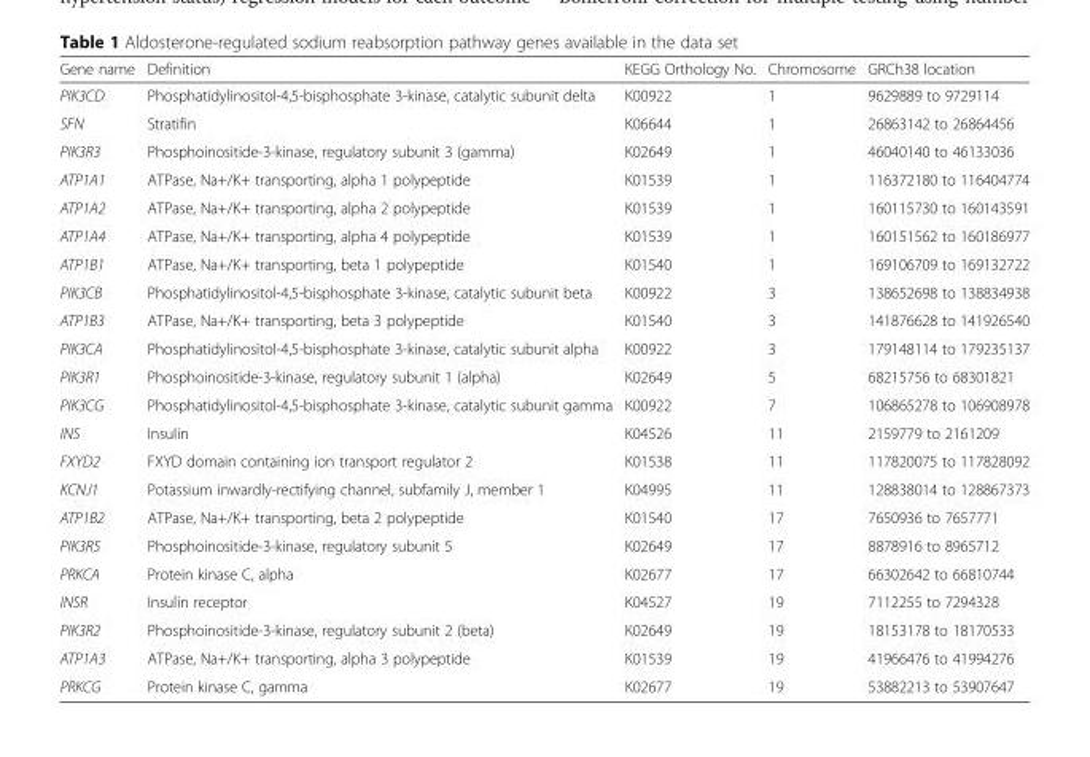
<table><thead><tr><td>Gene name</td><td>Definition</td><td>KEGG Orthology No.</td><td>Chromosome</td><td>GRCh38 location</td></tr></thead><tbody><tr><td>PIK3CD</td><td>Phosphatidylinositol-4,5-bisphosphate 3-kinase, catalytic subunit delta</td><td>K00922</td><td>1</td><td>9629889 to 9729114</td></tr><tr><td>SFN</td><td>Stratifin</td><td>K06644</td><td>1</td><td>26863142 to 26864456</td></tr><tr><td>PIK3R3</td><td>Phosphoinositide-3-kinase, regulatory subunit 3 (gamma)</td><td>K02649</td><td>1</td><td>46040140 to 46133036</td></tr><tr><td>ATP1A1</td><td>ATPase, Na+/K+ transporting, alpha 1 polypeptide</td><td>K01539</td><td>1</td><td>116372180 to 116404774</td></tr><tr><td>ATP1A2</td><td>ATPase, Na+/K+ transporting, alpha 2 polypeptide</td><td>K01539</td><td>1</td><td>160115730 to 160143591</td></tr><tr><td>ATP1A4</td><td>ATPase, Na+/K+ transporting, alpha 4 polypeptide</td><td>K01539</td><td>1</td><td>160151562 to 160186977</td></tr><tr><td>ATP1B1</td><td>ATPase, Na+/K+ transporting, beta 1 polypeptide</td><td>K01540</td><td>1</td><td>169106709 to 169132722</td></tr><tr><td>PIK3CB</td><td>Phosphatidylinositol-4,5-bisphosphate 3-kinase, catalytic subunit beta</td><td>K00922</td><td>3</td><td>138652698 to 138834938</td></tr><tr><td>ATP1B3</td><td>ATPase, Na+/K+ transporting, beta 3 polypeptide</td><td>K01540</td><td>3</td><td>141876628 to 141926540</td></tr><tr><td>PIK3CA</td><td>Phosphatidylinositol-4,5-bisphosphate 3-kinase, catalytic subunit alpha</td><td>K00922</td><td>3</td><td>179148114 to 179235137</td></tr><tr><td>PIK3R1</td><td>Phosphoinositide-3-kinase, regulatory subunit 1 (alpha)</td><td>K02649</td><td>5</td><td>68215756 to 68301821</td></tr><tr><td>PIK3CG</td><td>Phosphatidylinositol-4,5-bisphosphate 3-kinase, catalytic subunit gamma</td><td>K00922</td><td>7</td><td>106865278 to 106908978</td></tr><tr><td>INS</td><td>Insulin</td><td>K04526</td><td>11</td><td>2159779 to 2161209</td></tr><tr><td>FXYD2</td><td>FXYD domain containing ion transport regulator 2</td><td>K01538</td><td>11</td><td>117820075 to 117828092</td></tr><tr><td>KCNJ1</td><td>Potassium inwardly-rectifying channel, subfamily J, member 1</td><td>K04995</td><td>11</td><td>128838014 to 128867373</td></tr><tr><td>ATP1B2</td><td>ATPase, Na+/K+ transporting, beta 2 polypeptide</td><td>K01540</td><td>17</td><td>7650936 to 7657771</td></tr><tr><td>PIK3R5</td><td>Phosphoinositide-3-kinase, regulatory subunit 5</td><td>K02649</td><td>17</td><td>8878916 to 8965712</td></tr><tr><td>PRKCA</td><td>Protein kinase C, alpha</td><td>K02677</td><td>17</td><td>66302642 to 66810744</td></tr><tr><td>INSR</td><td>Insulin receptor</td><td>K04527</td><td>19</td><td>7112255 to 7294328</td></tr><tr><td>PIK3R2</td><td>Phosphoinositide-3-kinase, regulatory subunit 2 (beta)</td><td>K02649</td><td>19</td><td>18153178 to 18170533</td></tr><tr><td>ATP1A3</td><td>ATPase, Na+/K+ transporting, alpha 3 polypeptide</td><td>K01539</td><td>19</td><td>41966476 to 41994276</td></tr><tr><td>PRKCG</td><td>Protein kinase C, gamma</td><td>K02677</td><td>19</td><td>53882213 to 53907647</td></tr></tbody></table>